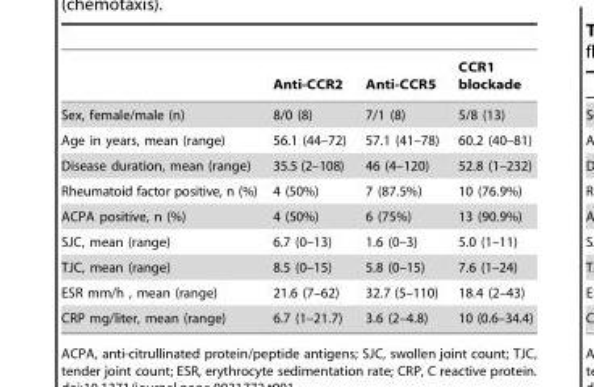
<table><thead><tr><td></td><td>Anti-CCR2</td><td>Anti-CCR5</td><td>CCR1 blockade</td></tr></thead><tbody><tr><td>Sex, female/male (n)</td><td>8/0 (8)</td><td>7/1 (8)</td><td>5/8 (13)</td></tr><tr><td>Age in years, mean (range)</td><td>56.1 (44–72)</td><td>57.1 (41–78)</td><td>60.2 (40–81)</td></tr><tr><td>Disease duration, mean (range)</td><td>35.5 (2–108)</td><td>46 (4–120)</td><td>52.8 (1–232)</td></tr><tr><td>Rheumatoid factor positive, n (%)</td><td>4 (50%)</td><td>7 (87.5%)</td><td>10 (76.9%)</td></tr><tr><td>ACPA positive, n (%)</td><td>4 (50%)</td><td>6 (75%)</td><td>13 (90.9%)</td></tr><tr><td>SJC, mean (range)</td><td>6.7 (0–13)</td><td>1.6 (0–3)</td><td>5.0 (1–11)</td></tr><tr><td>TJC, mean (range)</td><td>8.5 (0–15)</td><td>5.8 (0–15)</td><td>7.6 (1–24)</td></tr><tr><td>ESR mm/h , mean (range)</td><td>21.6 (7–62)</td><td>32.7 (5–110)</td><td>18.4 (2–43)</td></tr><tr><td>CRP mg/liter, mean (range)</td><td>6.7 (1–21.7)</td><td>3.6 (2–4.8)</td><td>10 (0.6–34.4)</td></tr></tbody></table>